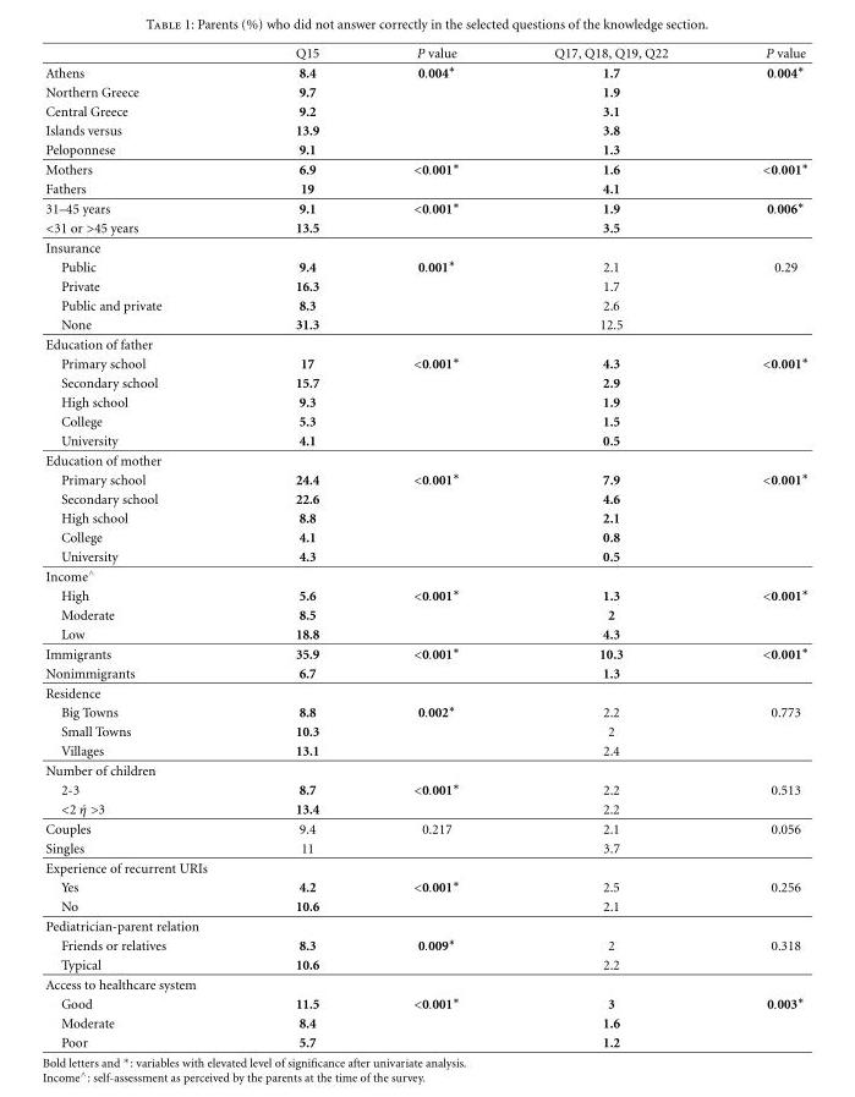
<table><thead><tr><td></td><td>Q15</td><td>P value</td><td>Q17, Q18, Q19, Q22</td><td>P value</td></tr></thead><tbody><tr><td>Athens</td><td>8.4</td><td>0.004∗</td><td>1.7</td><td>0.004∗</td></tr><tr><td>Northern Greece</td><td>9.7</td><td></td><td>1.9</td><td></td></tr><tr><td>Central Greece</td><td>9.2</td><td></td><td>3.1</td><td></td></tr><tr><td>Islands versus</td><td>13.9</td><td></td><td>3.8</td><td></td></tr><tr><td>Peloponnese</td><td>9.1</td><td></td><td>1.3</td><td></td></tr><tr><td>Mothers</td><td>6.9</td><td>&lt;0.001∗</td><td>1.6</td><td>&lt;0.001∗</td></tr><tr><td>Fathers</td><td>19</td><td></td><td>4.1</td><td></td></tr><tr><td>31–45 years</td><td>9.1</td><td>&lt;0.001∗</td><td>1.9</td><td>0.006∗</td></tr><tr><td>&lt;31 or &gt;45 years</td><td>13.5</td><td></td><td>3.5</td><td></td></tr><tr><td colspan="5">Insurance</td></tr><tr><td>Public</td><td>9.4</td><td>0.001∗</td><td>2.1</td><td>0.29</td></tr><tr><td>Private</td><td>16.3</td><td></td><td>1.7</td><td></td></tr><tr><td>Public and private</td><td>8.3</td><td></td><td>2.6</td><td></td></tr><tr><td>None</td><td>31.3</td><td></td><td>12.5</td><td></td></tr><tr><td colspan="5">Education of father</td></tr><tr><td>Primary school</td><td>17</td><td>&lt;0.001∗</td><td>4.3</td><td>&lt;0.001∗</td></tr><tr><td>Secondary school</td><td>15.7</td><td></td><td>2.9</td><td></td></tr><tr><td>High school</td><td>9.3</td><td></td><td>1.9</td><td></td></tr><tr><td>College</td><td>5.3</td><td></td><td>1.5</td><td></td></tr><tr><td>University</td><td>4.1</td><td></td><td>0.5</td><td></td></tr><tr><td colspan="5">Education of mother</td></tr><tr><td>Primary school</td><td>24.4</td><td>&lt;0.001∗</td><td>7.9</td><td>&lt;0.001∗</td></tr><tr><td>Secondary school</td><td>22.6</td><td></td><td>4.6</td><td></td></tr><tr><td>High school</td><td>8.8</td><td></td><td>2.1</td><td></td></tr><tr><td>College</td><td>4.1</td><td></td><td>0.8</td><td></td></tr><tr><td>University</td><td>4.3</td><td></td><td>0.5</td><td></td></tr><tr><td colspan="5">Income∧</td></tr><tr><td>High</td><td>5.6</td><td>&lt;0.001∗</td><td>1.3</td><td>&lt;0.001∗</td></tr><tr><td>Moderate</td><td>8.5</td><td></td><td>2</td><td></td></tr><tr><td>Low</td><td>18.8</td><td></td><td>4.3</td><td></td></tr><tr><td>Immigrants</td><td>35.9</td><td>&lt;0.001∗</td><td>10.3</td><td>&lt;0.001∗</td></tr><tr><td>Nonimmigrants</td><td>6.7</td><td></td><td>1.3</td><td></td></tr><tr><td colspan="5">Residence</td></tr><tr><td>Big Towns</td><td>8.8</td><td>0.002∗</td><td>2.2</td><td>0.773</td></tr><tr><td>Small Towns</td><td>10.3</td><td></td><td>2</td><td></td></tr><tr><td>Villages</td><td>13.1</td><td></td><td>2.4</td><td></td></tr><tr><td colspan="5">Number of children</td></tr><tr><td>2-3</td><td>8.7</td><td>&lt;0.001∗</td><td>2.2</td><td>0.513</td></tr><tr><td>&lt;2 ´η &gt;3</td><td>13.4</td><td></td><td>2.2</td><td></td></tr><tr><td>Couples</td><td>9.4</td><td>0.217</td><td>2.1</td><td>0.056</td></tr><tr><td>Singles</td><td>11</td><td></td><td>3.7</td><td></td></tr><tr><td colspan="5">Experience of recurrent URIs</td></tr><tr><td>Yes</td><td>4.2</td><td>&lt;0.001∗</td><td>2.5</td><td>0.256</td></tr><tr><td>No</td><td>10.6</td><td></td><td>2.1</td><td></td></tr><tr><td colspan="5">Pediatrician-parent relation</td></tr><tr><td>Friends or relatives</td><td>8.3</td><td>0.009∗</td><td>2</td><td>0.318</td></tr><tr><td>Typical</td><td>10.6</td><td></td><td>2.2</td><td></td></tr><tr><td colspan="5">Access to healthcare system</td></tr><tr><td>Good</td><td>11.5</td><td>&lt;0.001∗</td><td>3</td><td>0.003∗</td></tr><tr><td>Moderate</td><td>8.4</td><td></td><td>1.6</td><td></td></tr><tr><td>Poor</td><td>5.7</td><td></td><td>1.2</td><td></td></tr></tbody></table>